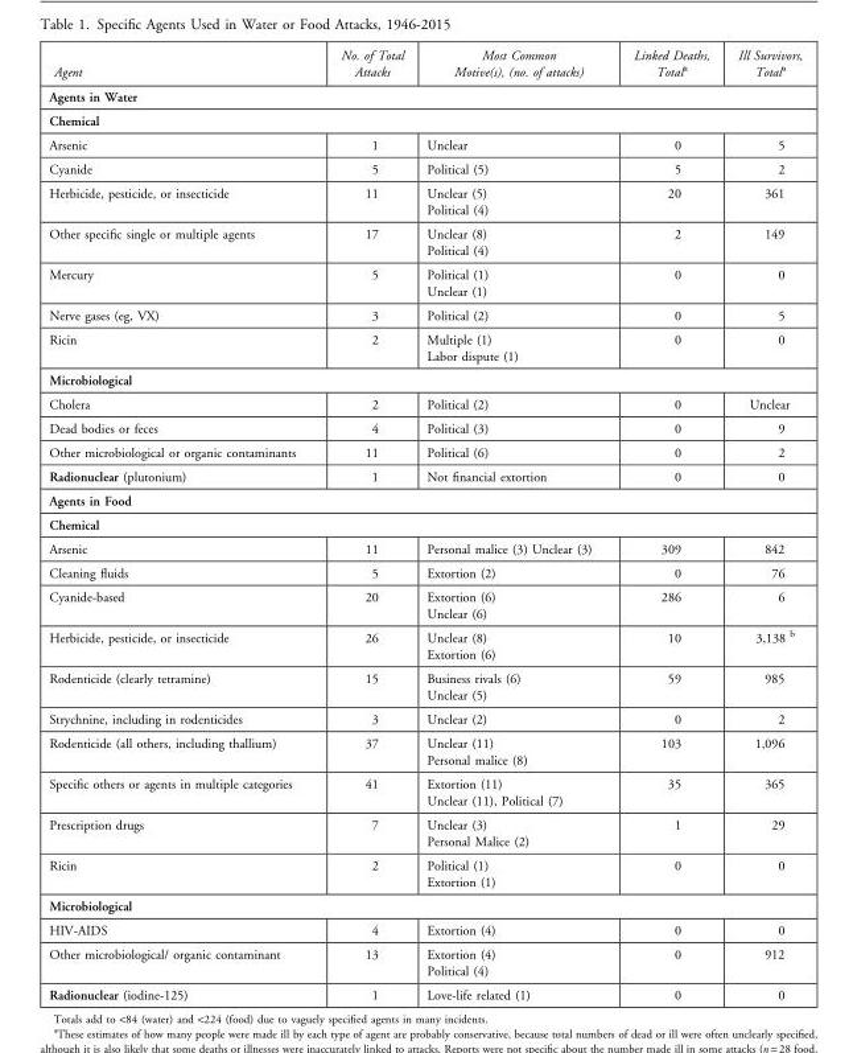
<table><thead><tr><td>Agent</td><td>No. of Total Attacks</td><td>Most Common Motive(s), (no. of attacks)</td><td>Linked Deaths, Total<sup>a</sup></td><td>Ill Survivors, Total<sup>a</sup></td></tr></thead><tbody><tr><td colspan="5">Agents in Water</td></tr><tr><td colspan="5">Chemical</td></tr><tr><td>Arsenic</td><td>1</td><td>Unclear</td><td>0</td><td>5</td></tr><tr><td>Cyanide</td><td>5</td><td>Political (5)</td><td>5</td><td>2</td></tr><tr><td>Herbicide, pesticide, or insecticide</td><td>11</td><td>Unclear (5) Political (4)</td><td>20</td><td>361</td></tr><tr><td>Other specific single or multiple agents</td><td>17</td><td>Unclear (8) Political (4)</td><td>2</td><td>149</td></tr><tr><td>Mercury</td><td>5</td><td>Political (1) Unclear (1)</td><td>0</td><td>0</td></tr><tr><td>Nerve gases (eg, VX)</td><td>3</td><td>Political (2)</td><td>0</td><td>5</td></tr><tr><td>Ricin</td><td>2</td><td>Multiple (1) Labor dispute (1)</td><td>0</td><td>0</td></tr><tr><td colspan="5">Microbiological</td></tr><tr><td>Cholera</td><td>2</td><td>Political (2)</td><td>0</td><td>Unclear</td></tr><tr><td>Dead bodies or feces</td><td>4</td><td>Political (3)</td><td>0</td><td>9</td></tr><tr><td>Other microbiological or organic contaminants</td><td>11</td><td>Political (6)</td><td>0</td><td>2</td></tr><tr><td>Radionuclear (plutonium)</td><td>1</td><td>Not financial extortion</td><td>0</td><td>0</td></tr><tr><td colspan="5">Agents in Food</td></tr><tr><td colspan="5">Chemical</td></tr><tr><td>Arsenic</td><td>11</td><td>Personal malice (3) Unclear (3)</td><td>309</td><td>842</td></tr><tr><td>Cleaning fluids</td><td>5</td><td>Extortion (2)</td><td>0</td><td>76</td></tr><tr><td>Cyanide-based</td><td>20</td><td>Extortion (6) Unclear (6)</td><td>286</td><td>6</td></tr><tr><td>Herbicide, pesticide, or insecticide</td><td>26</td><td>Unclear (8) Extortion (6)</td><td>10</td><td>3,138 <sup>b</sup></td></tr><tr><td>Rodenticide (clearly tetramine)</td><td>15</td><td>Business rivals (6) Unclear (5)</td><td>59</td><td>985</td></tr><tr><td>Strychnine, including in rodenticides</td><td>3</td><td>Unclear (2)</td><td>0</td><td>2</td></tr><tr><td>Rodenticide (all others, including thallium)</td><td>37</td><td>Unclear (11) Personal malice (8)</td><td>103</td><td>1,096</td></tr><tr><td>Specific others or agents in multiple categories</td><td>41</td><td>Extortion (11) Unclear (11), Political (7)</td><td>35</td><td>365</td></tr><tr><td>Prescription drugs</td><td>7</td><td>Unclear (3) Personal Malice (2)</td><td>1</td><td>29</td></tr><tr><td>Ricin</td><td>2</td><td>Political (1) Extortion (1)</td><td>0</td><td>0</td></tr><tr><td colspan="5">Microbiological</td></tr><tr><td>HIV-AIDS</td><td>4</td><td>Extortion (4)</td><td>0</td><td>0</td></tr><tr><td>Other microbiological/ organic contaminant</td><td>13</td><td>Extortion (4) Political (4)</td><td>0</td><td>912</td></tr><tr><td>Radionuclear (iodine-125)</td><td>1</td><td>Love-life related (1)</td><td>0</td><td>0</td></tr></tbody></table>